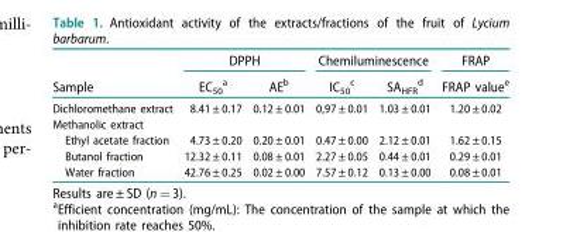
<table><thead><tr><td rowspan="2">Sample</td><td colspan="2">DPPH</td><td colspan="2">Chemiluminescence</td><td rowspan="2">FRAP FRAP value<sup>e</sup></td></tr><tr><td>EC<sub>50</sub> <sup>a</sup></td><td>AE<sup>b</sup></td><td>IC<sub>50</sub> <sup>c</sup></td><td>SA<sub>HFR</sub> <sup>d</sup></td></tr></thead><tbody><tr><td>Dichloromethane extract</td><td>8.41 ± 0.17</td><td>0.12 ± 0.01</td><td>0,97 ± 0.01</td><td>1.03 ± 0.01</td><td>1.20 ± 0.02</td></tr><tr><td colspan="6">Methanolic extract</td></tr><tr><td>Ethyl acetate fraction</td><td>4.73 ± 0.20</td><td>0.20 ± 0.01</td><td>0.47 ± 0.00</td><td>2.12 ± 0.01</td><td>1.62 ± 0.15</td></tr><tr><td>Butanol fraction</td><td>12.32 ± 0.11</td><td>0.08 ± 0.01</td><td>2.27 ± 0.05</td><td>0.44 ± 0.01</td><td>0.29 ± 0.01</td></tr><tr><td>Water fraction</td><td>42.76 ± 0.25</td><td>0.02 ± 0.00</td><td>7.57 ± 0.12</td><td>0.13 ± 0.00</td><td>0.08 ± 0.01</td></tr></tbody></table>